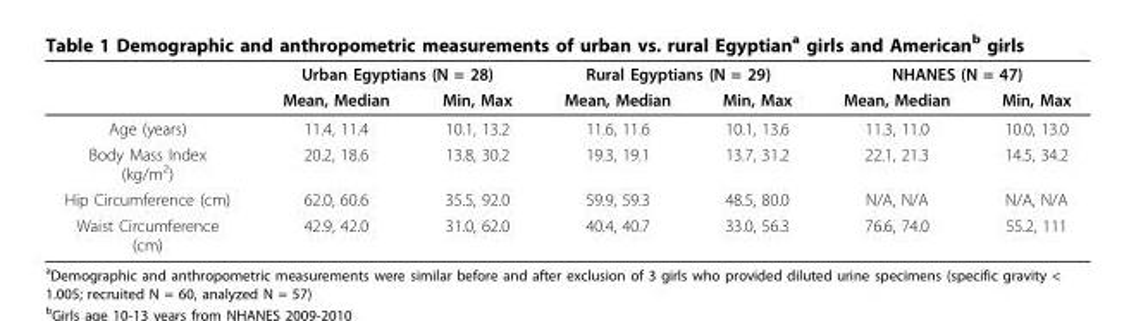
<table><thead><tr><td rowspan="2"></td><td colspan="2">Urban Egyptians (N = 28)</td><td colspan="2">Rural Egyptians (N = 29)</td><td colspan="2">NHANES (N = 47)</td></tr><tr><td>Mean, Median</td><td>Min, Max</td><td>Mean, Median</td><td>Min, Max</td><td>Mean, Median</td><td>Min, Max</td></tr></thead><tbody><tr><td>Age (years)</td><td>11.4, 11.4</td><td>10.1, 13.2</td><td>11.6, 11.6</td><td>10.1, 13.6</td><td>11.3, 11.0</td><td>10.0, 13.0</td></tr><tr><td>Body Mass Index (kg/m<sup>2</sup>)</td><td>20.2, 18.6</td><td>13.8, 30.2</td><td>19.3, 19.1</td><td>13.7, 31.2</td><td>22.1, 21.3</td><td>14.5, 34.2</td></tr><tr><td>Hip Circumference (cm)</td><td>62.0, 60.6</td><td>35.5, 92.0</td><td>59.9, 59.3</td><td>48.5, 80.0</td><td>N/A, N/A</td><td>N/A, N/A</td></tr><tr><td>Waist Circumference (cm)</td><td>42.9, 42.0</td><td>31.0, 62.0</td><td>40.4, 40.7</td><td>33.0, 56.3</td><td>76.6, 74.0</td><td>55.2, 111</td></tr></tbody></table>